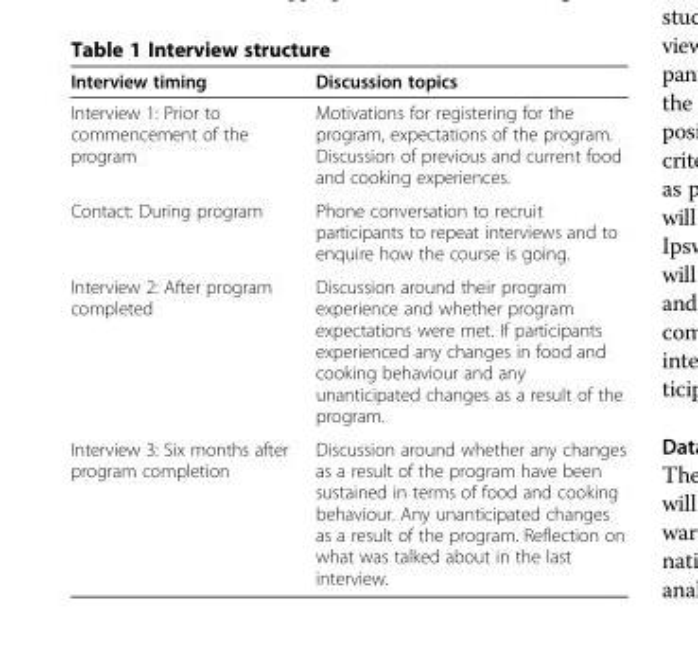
<table><thead><tr><td>Interview timing</td><td>Discussion topics</td></tr></thead><tbody><tr><td>Interview 1: Prior to commencement of the program</td><td>Motivations for registering for the program, expectations of the program. Discussion of previous and current food and cooking experiences.</td></tr><tr><td>Contact: During program</td><td>Phone conversation to recruit participants to repeat interviews and to enquire how the course is going.</td></tr><tr><td>Interview 2: After program completed</td><td>Discussion around their program experience and whether program expectations were met. If participants experienced any changes in food and cooking behaviour and any unanticipated changes as a result of the program.</td></tr><tr><td>Interview 3: Six months after program completion</td><td>Discussion around whether any changes as a result of the program have been sustained in terms of food and cooking behaviour. Any unanticipated changes as a result of the program. Reflection on what was talked about in the last interview.</td></tr></tbody></table>